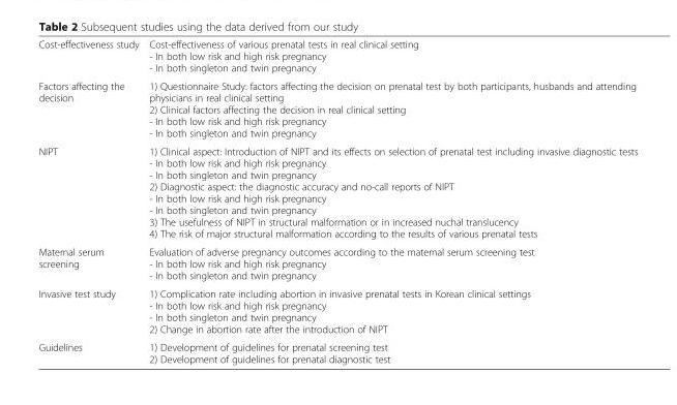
<table><tbody><tr><td>Cost-effectiveness study</td><td>Cost-effectiveness of various prenatal tests in real clinical setting - In both low risk and high risk pregnancy - In both singleton and twin pregnancy</td></tr><tr><td>Factors affecting the decision</td><td>1) Questionnaire Study: factors affecting the decision on prenatal test by both participants, husbands and attending physicians in real clinical setting 2) Clinical factors affecting the decision in real clinical setting - In both low risk and high risk pregnancy - In both singleton and twin pregnancy</td></tr><tr><td>NIPT</td><td>1) Clinical aspect: Introduction of NIPT and its effects on selection of prenatal test including invasive diagnostic tests - In both low risk and high risk pregnancy - In both singleton and twin pregnancy 2) Diagnostic aspect: the diagnostic accuracy and no-call reports of NIPT - In both low risk and high risk pregnancy - In both singleton and twin pregnancy 3) The usefulness of NIPT in structural malformation or in increased nuchal translucency 4) The risk of major structural malformation according to the results of various prenatal tests</td></tr><tr><td>Maternal serum screening</td><td>Evaluation of adverse pregnancy outcomes according to the maternal serum screening test - In both low risk and high risk pregnancy - In both singleton and twin pregnancy</td></tr><tr><td>Invasive test study</td><td>1) Complication rate including abortion in invasive prenatal tests in Korean clinical settings - In both low risk and high risk pregnancy - In both singleton and twin pregnancy 2) Change in abortion rate after the introduction of NIPT</td></tr><tr><td>Guidelines</td><td>1) Development of guidelines for prenatal screening test 2) Development of guidelines for prenatal diagnostic test</td></tr></tbody></table>